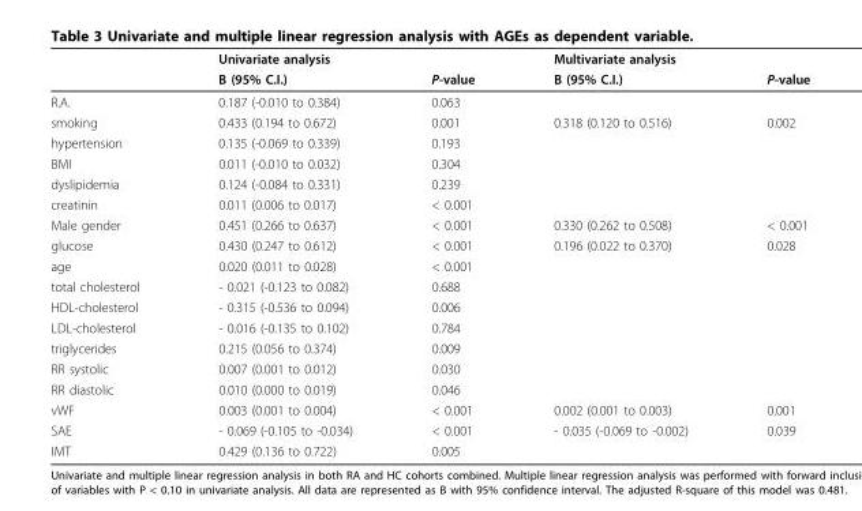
<table><thead><tr><td rowspan="2"></td><td rowspan="2">Univariate analysis B (95% C.I.)</td><td rowspan="2">P-value</td><td rowspan="2">Multivariate analysis B (95% C.I.)</td><td rowspan="2">P-value</td></tr><tr></tr></thead><tbody><tr><td>R.A.</td><td>0.187 (-0.010 to 0.384)</td><td>0.063</td><td></td><td></td></tr><tr><td>smoking</td><td>0.433 (0.194 to 0.672)</td><td>0.001</td><td>0.318 (0.120 to 0.516)</td><td>0.002</td></tr><tr><td>hypertension</td><td>0.135 (-0.069 to 0.339)</td><td>0.193</td><td></td><td></td></tr><tr><td>BMI</td><td>0.011 (-0.010 to 0.032)</td><td>0.304</td><td></td><td></td></tr><tr><td>dyslipidemia</td><td>0.124 (-0.084 to 0.331)</td><td>0.239</td><td></td><td></td></tr><tr><td>creatinin</td><td>0.011 (0.006 to 0.017)</td><td>&lt; 0.001</td><td></td><td></td></tr><tr><td>Male gender</td><td>0.451 (0.266 to 0.637)</td><td>&lt; 0.001</td><td>0.330 (0.262 to 0.508)</td><td>&lt; 0.001</td></tr><tr><td>glucose</td><td>0.430 (0.247 to 0.612)</td><td>&lt; 0.001</td><td>0.196 (0.022 to 0.370)</td><td>0.028</td></tr><tr><td>age</td><td>0.020 (0.011 to 0.028)</td><td>&lt; 0.001</td><td></td><td></td></tr><tr><td>total cholesterol</td><td>- 0.021 (-0.123 to 0.082)</td><td>0.688</td><td></td><td></td></tr><tr><td>HDL-cholesterol</td><td>- 0.315 (-0.536 to 0.094)</td><td>0.006</td><td></td><td></td></tr><tr><td>LDL-cholesterol</td><td>- 0.016 (-0.135 to 0.102)</td><td>0.784</td><td></td><td></td></tr><tr><td>triglycerides</td><td>0.215 (0.056 to 0.374)</td><td>0.009</td><td></td><td></td></tr><tr><td>RR systolic</td><td>0.007 (0.001 to 0.012)</td><td>0.030</td><td></td><td></td></tr><tr><td>RR diastolic</td><td>0.010 (0.000 to 0.019)</td><td>0.046</td><td></td><td></td></tr><tr><td>vWF</td><td>0.003 (0.001 to 0.004)</td><td>&lt; 0.001</td><td>0.002 (0.001 to 0.003)</td><td>0.001</td></tr><tr><td>SAE</td><td>- 0.069 (-0.105 to -0.034)</td><td>&lt; 0.001</td><td>- 0.035 (-0.069 to -0.002)</td><td>0.039</td></tr><tr><td>IMT</td><td>0.429 (0.136 to 0.722)</td><td>0.005</td><td></td><td></td></tr></tbody></table>